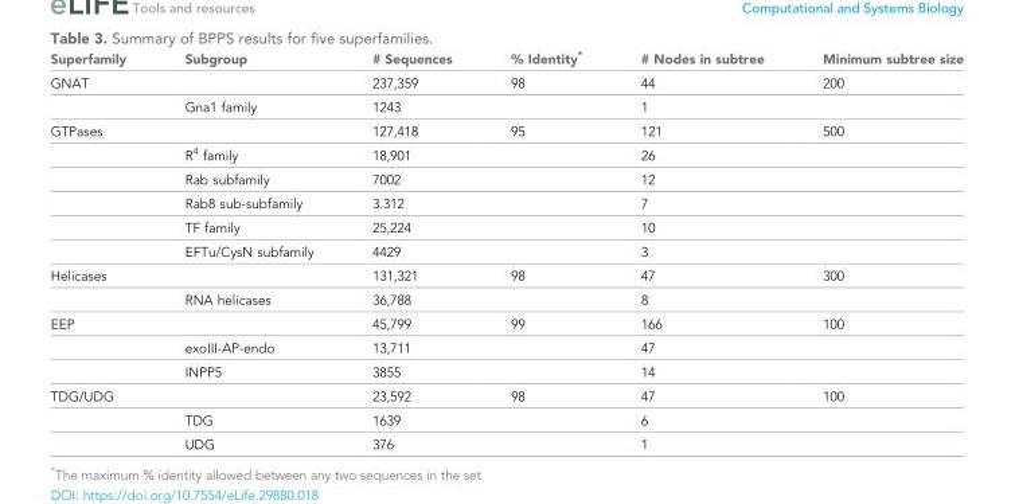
<table><thead><tr><td>Superfamily</td><td>Subgroup</td><td># Sequences</td><td>% Identity*</td><td># Nodes in subtree</td><td>Minimum subtree size</td></tr></thead><tbody><tr><td rowspan="2">GNAT</td><td></td><td>237,359</td><td>98</td><td>44</td><td>200</td></tr><tr><td>Gna1 family</td><td>1243</td><td></td><td>1</td><td></td></tr><tr><td rowspan="6">GTPases</td><td></td><td>127,418</td><td>95</td><td>121</td><td>500</td></tr><tr><td>R<sup>4</sup> family</td><td>18,901</td><td></td><td>26</td><td></td></tr><tr><td>Rab subfamily</td><td>7002</td><td></td><td>12</td><td></td></tr><tr><td>Rab8 sub-subfamily</td><td>3.312</td><td></td><td>7</td><td></td></tr><tr><td>TF family</td><td>25,224</td><td></td><td>10</td><td></td></tr><tr><td>EFTu/CysN subfamily</td><td>4429</td><td></td><td>3</td><td></td></tr><tr><td rowspan="2">Helicases</td><td></td><td>131,321</td><td>98</td><td>47</td><td>300</td></tr><tr><td>RNA helicases</td><td>36,788</td><td></td><td>8</td><td></td></tr><tr><td rowspan="3">EEP</td><td></td><td>45,799</td><td>99</td><td>166</td><td>100</td></tr><tr><td>exoIII-AP-endo</td><td>13,711</td><td></td><td>47</td><td></td></tr><tr><td>INPP5</td><td>3855</td><td></td><td>14</td><td></td></tr><tr><td rowspan="3">TDG/UDG</td><td></td><td>23,592</td><td>98</td><td>47</td><td>100</td></tr><tr><td>TDG</td><td>1639</td><td></td><td>6</td><td></td></tr><tr><td>UDG</td><td>376</td><td></td><td>1</td><td></td></tr></tbody></table>